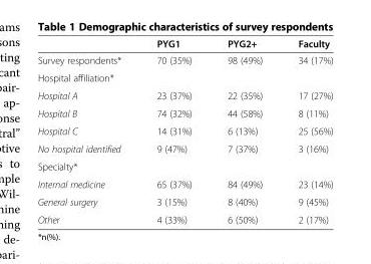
<table><thead><tr><td></td><td>PYG1</td><td>PYG2+</td><td>Faculty</td></tr></thead><tbody><tr><td>Survey respondents*</td><td>70 (35%)</td><td>98 (49%)</td><td>34 (17%)</td></tr><tr><td colspan="4">Hospital affiliation*</td></tr><tr><td>Hospital A</td><td>23 (37%)</td><td>22 (35%)</td><td>17 (27%)</td></tr><tr><td>Hospital B</td><td>74 (32%)</td><td>44 (58%)</td><td>8 (11%)</td></tr><tr><td>Hospital C</td><td>14 (31%)</td><td>6 (13%)</td><td>25 (56%)</td></tr><tr><td>No hospital identified</td><td>9 (47%)</td><td>7 (37%)</td><td>3 (16%)</td></tr><tr><td colspan="4">Specialty*</td></tr><tr><td>Internal medicine</td><td>65 (37%)</td><td>84 (49%)</td><td>23 (14%)</td></tr><tr><td>General surgery</td><td>3 (15%)</td><td>8 (40%)</td><td>9 (45%)</td></tr><tr><td>Other</td><td>4 (33%)</td><td>6 (50%)</td><td>2 (17%)</td></tr></tbody></table>